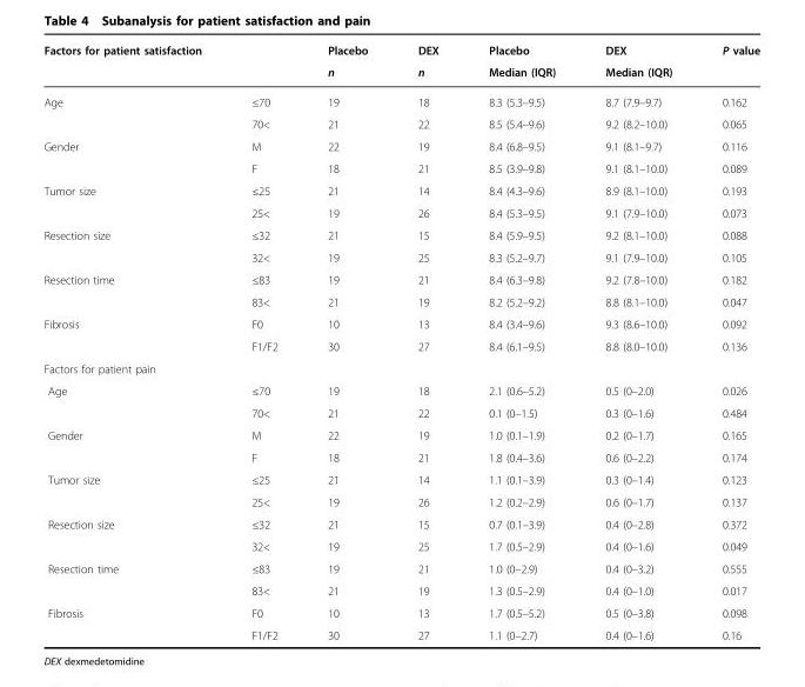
<table><thead><tr><td rowspan="2">Factors for patient satisfaction</td><td rowspan="2"></td><td rowspan="2">Placebo n</td><td rowspan="2">DEX n</td><td rowspan="2">Placebo Median (IQR)</td><td rowspan="2">DEX Median (IQR)</td><td rowspan="2">P value</td></tr><tr></tr></thead><tbody><tr><td rowspan="2">Age</td><td>≤70</td><td>19</td><td>18</td><td>8.3 (5.3–9.5)</td><td>8.7 (7.9–9.7)</td><td>0.162</td></tr><tr><td>70&lt;</td><td>21</td><td>22</td><td>8.5 (5.4–9.6)</td><td>9.2 (8.2–10.0)</td><td>0.065</td></tr><tr><td rowspan="2">Gender</td><td>M</td><td>22</td><td>19</td><td>8.4 (6.8–9.5)</td><td>9.1 (8.1–9.7)</td><td>0.116</td></tr><tr><td>F</td><td>18</td><td>21</td><td>8.5 (3.9–9.8)</td><td>9.1 (8.1–10.0)</td><td>0.089</td></tr><tr><td rowspan="2">Tumor size</td><td>≤25</td><td>21</td><td>14</td><td>8.4 (4.3–9.6)</td><td>8.9 (8.1–10.0)</td><td>0.193</td></tr><tr><td>25&lt;</td><td>19</td><td>26</td><td>8.4 (5.3–9.5)</td><td>9.1 (7.9–10.0)</td><td>0.073</td></tr><tr><td rowspan="2">Resection size</td><td>≤32</td><td>21</td><td>15</td><td>8.4 (5.9–9.5)</td><td>9.2 (8.1–10.0)</td><td>0.088</td></tr><tr><td>32&lt;</td><td>19</td><td>25</td><td>8.3 (5.2–9.7)</td><td>9.1 (7.9–10.0)</td><td>0.105</td></tr><tr><td rowspan="2">Resection time</td><td>≤83</td><td>19</td><td>21</td><td>8.4 (6.3–9.8)</td><td>9.2 (7.8–10.0)</td><td>0.182</td></tr><tr><td>83&lt;</td><td>21</td><td>19</td><td>8.2 (5.2–9.2)</td><td>8.8 (8.1–10.0)</td><td>0.047</td></tr><tr><td rowspan="2">Fibrosis</td><td>F0</td><td>10</td><td>13</td><td>8.4 (3.4–9.6)</td><td>9.3 (8.6–10.0)</td><td>0.092</td></tr><tr><td>F1/F2</td><td>30</td><td>27</td><td>8.4 (6.1–9.5)</td><td>8.8 (8.0–10.0)</td><td>0.136</td></tr><tr><td colspan="7">Factors for patient pain</td></tr><tr><td rowspan="2">Age</td><td>≤70</td><td>19</td><td>18</td><td>2.1 (0.6–5.2)</td><td>0.5 (0–2.0)</td><td>0.026</td></tr><tr><td>70&lt;</td><td>21</td><td>22</td><td>0.1 (0–1.5)</td><td>0.3 (0–1.6)</td><td>0.484</td></tr><tr><td rowspan="2">Gender</td><td>M</td><td>22</td><td>19</td><td>1.0 (0.1–1.9)</td><td>0.2 (0–1.7)</td><td>0.165</td></tr><tr><td>F</td><td>18</td><td>21</td><td>1.8 (0.4–3.6)</td><td>0.6 (0–2.2)</td><td>0.174</td></tr><tr><td rowspan="2">Tumor size</td><td>≤25</td><td>21</td><td>14</td><td>1.1 (0.1–3.9)</td><td>0.3 (0–1.4)</td><td>0.123</td></tr><tr><td>25&lt;</td><td>19</td><td>26</td><td>1.2 (0.2–2.9)</td><td>0.6 (0–1.7)</td><td>0.137</td></tr><tr><td rowspan="2">Resection size</td><td>≤32</td><td>21</td><td>15</td><td>0.7 (0.1–3.9)</td><td>0.4 (0–2.8)</td><td>0.372</td></tr><tr><td>32&lt;</td><td>19</td><td>25</td><td>1.7 (0.5–2.9)</td><td>0.4 (0–1.6)</td><td>0.049</td></tr><tr><td rowspan="2">Resection time</td><td>≤83</td><td>19</td><td>21</td><td>1.0 (0–2.9)</td><td>0.4 (0–3.2)</td><td>0.555</td></tr><tr><td>83&lt;</td><td>21</td><td>19</td><td>1.3 (0.5–2.9)</td><td>0.4 (0–1.0)</td><td>0.017</td></tr><tr><td rowspan="2">Fibrosis</td><td>F0</td><td>10</td><td>13</td><td>1.7 (0.5–5.2)</td><td>0.5 (0–3.8)</td><td>0.098</td></tr><tr><td>F1/F2</td><td>30</td><td>27</td><td>1.1 (0–2.7)</td><td>0.4 (0–1.6)</td><td>0.16</td></tr></tbody></table>